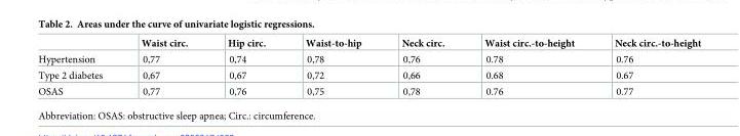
<table><thead><tr><td></td><td>Waist circ.</td><td>Hip circ.</td><td>Waist-to-hip</td><td>Neck circ.</td><td>Waist circ.-to-height</td><td>Neck circ.-to-height</td></tr></thead><tbody><tr><td>Hypertension</td><td>0,77</td><td>0,74</td><td>0,78</td><td>0,76</td><td>0.78</td><td>0.76</td></tr><tr><td>Type 2 diabetes</td><td>0,67</td><td>0,67</td><td>0,72</td><td>0,66</td><td>0.68</td><td>0.67</td></tr><tr><td>OSAS</td><td>0,77</td><td>0,76</td><td>0,75</td><td>0,78</td><td>0.76</td><td>0.77</td></tr></tbody></table>